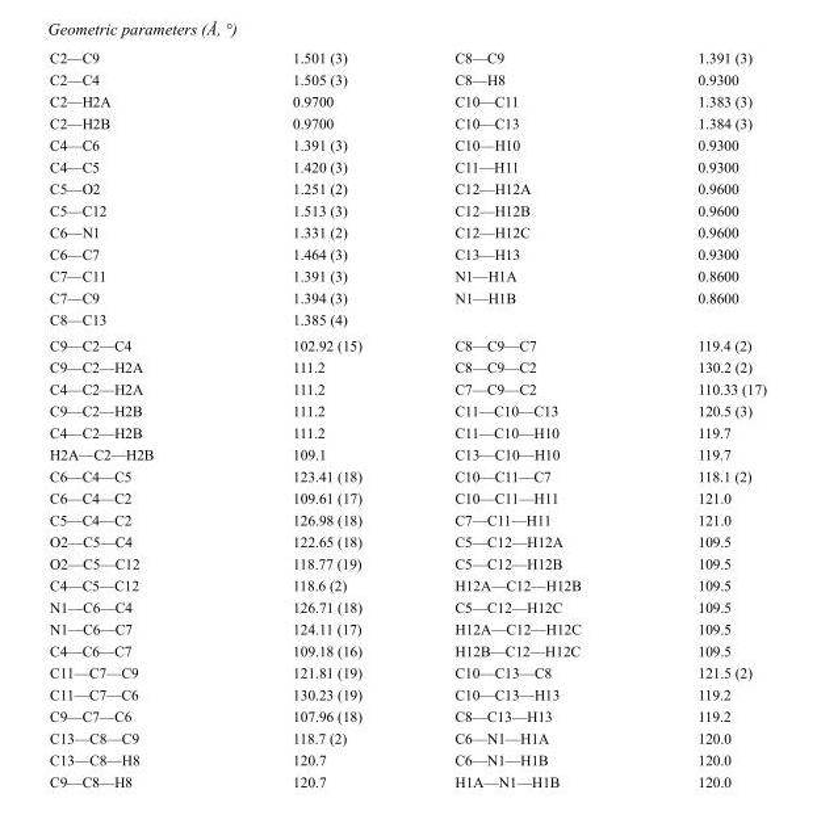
<table><tbody><tr><td>C2—C9</td><td>1.501 (3)</td><td>C8—C9</td><td>1.391 (3)</td></tr><tr><td>C2—C4</td><td>1.505 (3)</td><td>C8—H8</td><td>0.9300</td></tr><tr><td>C2—H2A</td><td>0.9700</td><td>C10—C11</td><td>1.383 (3)</td></tr><tr><td>C2—H2B</td><td>0.9700</td><td>C10—C13</td><td>1.384 (3)</td></tr><tr><td>C4—C6</td><td>1.391 (3)</td><td>C10—H10</td><td>0.9300</td></tr><tr><td>C4—C5</td><td>1.420 (3)</td><td>C11—H11</td><td>0.9300</td></tr><tr><td>C5—O2</td><td>1.251 (2)</td><td>C12—H12A</td><td>0.9600</td></tr><tr><td>C5—C12</td><td>1.513 (3)</td><td>C12—H12B</td><td>0.9600</td></tr><tr><td>C6—N1</td><td>1.331 (2)</td><td>C12—H12C</td><td>0.9600</td></tr><tr><td>C6—C7</td><td>1.464 (3)</td><td>C13—H13</td><td>0.9300</td></tr><tr><td>C7—C11</td><td>1.391 (3)</td><td>N1—H1A</td><td>0.8600</td></tr><tr><td>C7—C9</td><td>1.394 (3)</td><td>N1—H1B</td><td>0.8600</td></tr><tr><td>C8—C13</td><td>1.385 (4)</td><td></td><td></td></tr><tr><td>C9—C2—C4</td><td>102.92 (15)</td><td>C8—C9—C7</td><td>119.4 (2)</td></tr><tr><td>C9—C2—H2A</td><td>111.2</td><td>C8—C9—C2</td><td>130.2 (2)</td></tr><tr><td>C4—C2—H2A</td><td>111.2</td><td>C7—C9—C2</td><td>110.33 (17)</td></tr><tr><td>C9—C2—H2B</td><td>111.2</td><td>C11—C10—C13</td><td>120.5 (3)</td></tr><tr><td>C4—C2—H2B</td><td>111.2</td><td>C11—C10—H10</td><td>119.7</td></tr><tr><td>H2A—C2—H2B</td><td>109.1</td><td>C13—C10—H10</td><td>119.7</td></tr><tr><td>C6—C4—C5</td><td>123.41 (18)</td><td>C10—C11—C7</td><td>118.1 (2)</td></tr><tr><td>C6—C4—C2</td><td>109.61 (17)</td><td>C10—C11—H11</td><td>121.0</td></tr><tr><td>C5—C4—C2</td><td>126.98 (18)</td><td>C7—C11—H11</td><td>121.0</td></tr><tr><td>O2—C5—C4</td><td>122.65 (18)</td><td>C5—C12—H12A</td><td>109.5</td></tr><tr><td>O2—C5—C12</td><td>118.77 (19)</td><td>C5—C12—H12B</td><td>109.5</td></tr><tr><td>C4—C5—C12</td><td>118.6 (2)</td><td>H12A—C12—H12B</td><td>109.5</td></tr><tr><td>N1—C6—C4</td><td>126.71 (18)</td><td>C5—C12—H12C</td><td>109.5</td></tr><tr><td>N1—C6—C7</td><td>124.11 (17)</td><td>H12A—C12—H12C</td><td>109.5</td></tr><tr><td>C4—C6—C7</td><td>109.18 (16)</td><td>H12B—C12—H12C</td><td>109.5</td></tr><tr><td>C11—C7—C9</td><td>121.81 (19)</td><td>C10—C13—C8</td><td>121.5 (2)</td></tr><tr><td>C11—C7—C6</td><td>130.23 (19)</td><td>C10—C13—H13</td><td>119.2</td></tr><tr><td>C9—C7—C6</td><td>107.96 (18)</td><td>C8—C13—H13</td><td>119.2</td></tr><tr><td>C13—C8—C9</td><td>118.7 (2)</td><td>C6—N1—H1A</td><td>120.0</td></tr><tr><td>C13—C8—H8</td><td>120.7</td><td>C6—N1—H1B</td><td>120.0</td></tr><tr><td>C9—C8—H8</td><td>120.7</td><td>H1A—N1—H1B</td><td>120.0</td></tr></tbody></table>